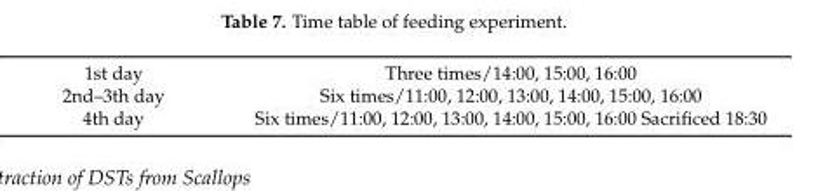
<table><tbody><tr><td>1st day</td><td>Three times/14:00, 15:00, 16:00</td></tr><tr><td>2nd–3th day</td><td>Six times/11:00, 12:00, 13:00, 14:00, 15:00, 16:00</td></tr><tr><td>4th day</td><td>Six times/11:00, 12:00, 13:00, 14:00, 15:00, 16:00 Sacrificed 18:30</td></tr></tbody></table>